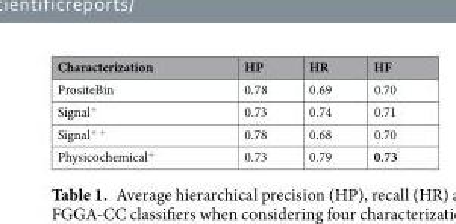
<table><thead><tr><td>Characterization</td><td>HP</td><td>HR</td><td>HF</td></tr></thead><tbody><tr><td>PrositeBin</td><td>0.78</td><td>0.69</td><td>0.70</td></tr><tr><td>Signal<sup>+</sup></td><td>0.73</td><td>0.74</td><td>0.71</td></tr><tr><td>Signal<sup>+ +</sup></td><td>0.78</td><td>0.68</td><td>0.70</td></tr><tr><td>Physicochemical<sup>+</sup></td><td>0.73</td><td>0.79</td><td>0.73</td></tr></tbody></table>